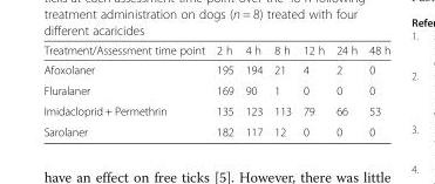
<table><thead><tr><td>Treatment/Assessment time point</td><td>2 h</td><td>4 h</td><td>8 h</td><td>12 h</td><td>24 h</td><td>48 h</td></tr></thead><tbody><tr><td>Afoxolaner</td><td>195</td><td>194</td><td>21</td><td>4</td><td>2</td><td>0</td></tr><tr><td>Fluralaner</td><td>169</td><td>90</td><td>1</td><td>0</td><td>0</td><td>0</td></tr><tr><td>Imidacloprid + Permethrin</td><td>135</td><td>123</td><td>113</td><td>79</td><td>66</td><td>53</td></tr><tr><td>Sarolaner</td><td>182</td><td>117</td><td>12</td><td>0</td><td>0</td><td>0</td></tr></tbody></table>